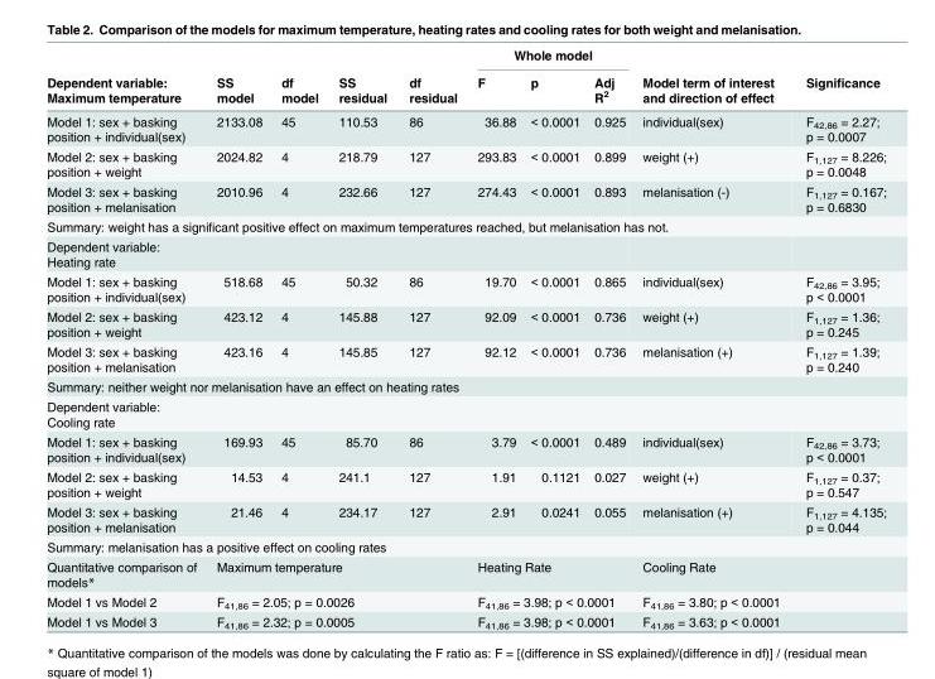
<table><thead><tr><td rowspan="2">Dependent variable: Maximum temperature</td><td rowspan="2">SS model</td><td rowspan="2">df model</td><td rowspan="2">SS residual</td><td rowspan="2">df residual</td><td colspan="3">Whole model</td><td rowspan="2">Model term of interest and direction of effect</td><td rowspan="2">Significance</td></tr><tr><td>F</td><td>p</td><td>Adj R<sup>2</sup></td></tr></thead><tbody><tr><td>Model 1: sex + basking position + individual(sex)</td><td>2133.08</td><td>45</td><td>110.53</td><td>86</td><td>36.88</td><td>&lt; 0.0001</td><td>0.925</td><td>individual(sex)</td><td>F<sub>42,86</sub> = 2.27; p = 0.0007</td></tr><tr><td>Model 2: sex + basking position + weight</td><td>2024.82</td><td>4</td><td>218.79</td><td>127</td><td>293.83</td><td>&lt; 0.0001</td><td>0.899</td><td>weight (+)</td><td>F<sub>1,127</sub> = 8.226; p = 0.0048</td></tr><tr><td>Model 3: sex + basking position + melanisation</td><td>2010.96</td><td>4</td><td>232.66</td><td>127</td><td>274.43</td><td>&lt; 0.0001</td><td>0.893</td><td>melanisation (-)</td><td>F<sub>1,127</sub> = 0.167; p = 0.6830</td></tr><tr><td colspan="10">Summary: weight has a significant positive effect on maximum temperatures reached, but melanisation has not.</td></tr><tr><td colspan="10">Dependent variable: Heating rate</td></tr><tr><td>Model 1: sex + basking position + individual(sex)</td><td>518.68</td><td>45</td><td>50.32</td><td>86</td><td>19.70</td><td>&lt; 0.0001</td><td>0.865</td><td>individual(sex)</td><td>F<sub>42,86</sub> = 3.95; p &lt; 0.0001</td></tr><tr><td>Model 2: sex + basking position + weight</td><td>423.12</td><td>4</td><td>145.88</td><td>127</td><td>92.09</td><td>&lt; 0.0001</td><td>0.736</td><td>weight (+)</td><td>F<sub>1,127</sub> = 1.36; p = 0.245</td></tr><tr><td>Model 3: sex + basking position + melanisation</td><td>423.16</td><td>4</td><td>145.85</td><td>127</td><td>92.12</td><td>&lt; 0.0001</td><td>0.736</td><td>melanisation (+)</td><td>F<sub>1,127</sub> = 1.39; p = 0.240</td></tr><tr><td colspan="10">Summary: neither weight nor melanisation have an effect on heating rates</td></tr><tr><td colspan="10">Dependent variable: Cooling rate</td></tr><tr><td>Model 1: sex + basking position + individual(sex)</td><td>169.93</td><td>45</td><td>85.70</td><td>86</td><td>3.79</td><td>&lt; 0.0001</td><td>0.489</td><td>individual(sex)</td><td>F<sub>42,86</sub> = 3.73; p &lt; 0.0001</td></tr><tr><td>Model 2: sex + basking position + weight</td><td>14.53</td><td>4</td><td>241.1</td><td>127</td><td>1.91</td><td>0.1121</td><td>0.027</td><td>weight (+)</td><td>F<sub>1,127</sub> = 0.37; p = 0.547</td></tr><tr><td>Model 3: sex + basking position + melanisation</td><td>21.46</td><td>4</td><td>234.17</td><td>127</td><td>2.91</td><td>0.0241</td><td>0.055</td><td>melanisation (+)</td><td>F<sub>1,127</sub> = 4.135; p = 0.044</td></tr><tr><td colspan="10">Summary: melanisation has a positive effect on cooling rates</td></tr><tr><td>Quantitative comparison of models*</td><td colspan="4">Maximum temperature</td><td colspan="3">Heating Rate</td><td colspan="2">Cooling Rate</td></tr><tr><td>Model 1 vs Model 2</td><td colspan="4">F<sub>41,86</sub> = 2.05; p = 0.0026</td><td colspan="3">F<sub>41,86</sub> = 3.98; p &lt; 0.0001</td><td colspan="2">F<sub>41,86</sub> = 3.80; p &lt; 0.0001</td></tr><tr><td>Model 1 vs Model 3</td><td colspan="4">F<sub>41,86</sub> = 2.32; p = 0.0005</td><td colspan="3">F<sub>41,86</sub> = 3.98; p &lt; 0.0001</td><td colspan="2">F<sub>41,86</sub> = 3.63; p &lt; 0.0001</td></tr></tbody></table>